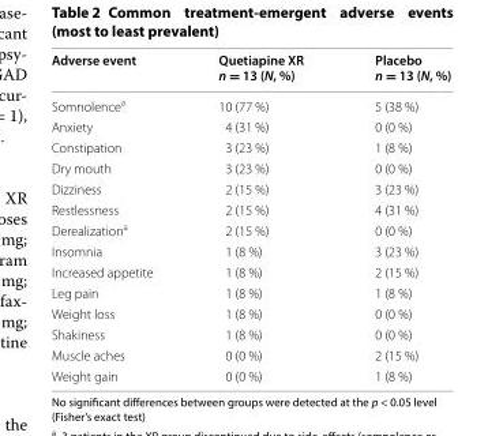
<table><thead><tr><td>Adverse event</td><td>Quetiapine XR n = 13 (N, %)</td><td>Placebo n = 13 (N, %)</td></tr></thead><tbody><tr><td>Somnolence<sup>a</sup></td><td>10 (77 %)</td><td>5 (38 %)</td></tr><tr><td>Anxiety</td><td>4 (31 %)</td><td>0 (0 %)</td></tr><tr><td>Constipation</td><td>3 (23 %)</td><td>1 (8 %)</td></tr><tr><td>Dry mouth</td><td>3 (23 %)</td><td>0 (0 %)</td></tr><tr><td>Dizziness</td><td>2 (15 %)</td><td>3 (23 %)</td></tr><tr><td>Restlessness</td><td>2 (15 %)</td><td>4 (31 %)</td></tr><tr><td>Derealization<sup>a</sup></td><td>2 (15 %)</td><td>0 (0 %)</td></tr><tr><td>Insomnia</td><td>1 (8 %)</td><td>3 (23 %)</td></tr><tr><td>Increased appetite</td><td>1 (8 %)</td><td>2 (15 %)</td></tr><tr><td>Leg pain</td><td>1 (8 %)</td><td>1 (8 %)</td></tr><tr><td>Weight loss</td><td>1 (8 %)</td><td>0 (0 %)</td></tr><tr><td>Shakiness</td><td>1 (8 %)</td><td>0 (0 %)</td></tr><tr><td>Muscle aches</td><td>0 (0 %)</td><td>2 (15 %)</td></tr><tr><td>Weight gain</td><td>0 (0 %)</td><td>1 (8 %)</td></tr></tbody></table>